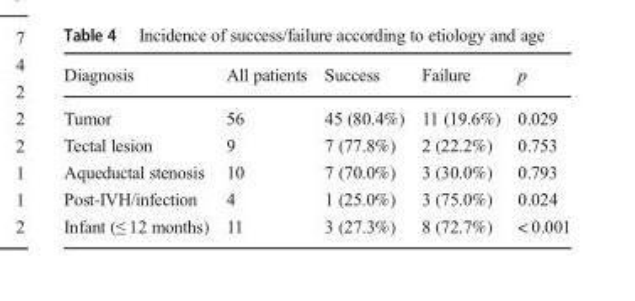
<table><thead><tr><td>Diagnosis</td><td>All patients</td><td>Success</td><td>Failure</td><td>p</td></tr></thead><tbody><tr><td>Tumor</td><td>56</td><td>45 (80.4%)</td><td>11 (19.6%)</td><td>0.029</td></tr><tr><td>Tectal lesion</td><td>9</td><td>7 (77.8%)</td><td>2 (22.2%)</td><td>0.753</td></tr><tr><td>Aqueductal stenosis</td><td>10</td><td>7 (70.0%)</td><td>3 (30.0%)</td><td>0.793</td></tr><tr><td>Post-IVH/infection</td><td>4</td><td>1 (25.0%)</td><td>3 (75.0%)</td><td>0.024</td></tr><tr><td>Infant (≤ 12 months)</td><td>11</td><td>3 (27.3%)</td><td>8 (72.7%)</td><td>&lt; 0.001</td></tr></tbody></table>